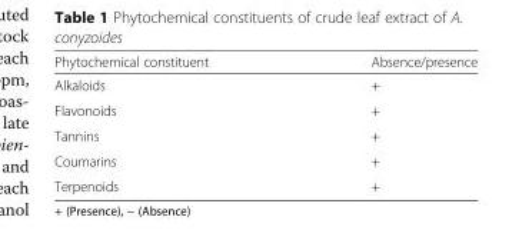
<table><thead><tr><td>Phytochemical constituent</td><td>Absence/presence</td></tr></thead><tbody><tr><td>Alkaloids</td><td>+</td></tr><tr><td>Flavonoids</td><td>+</td></tr><tr><td>Tannins</td><td>+</td></tr><tr><td>Coumarins</td><td>+</td></tr><tr><td>Terpenoids</td><td>+</td></tr></tbody></table>